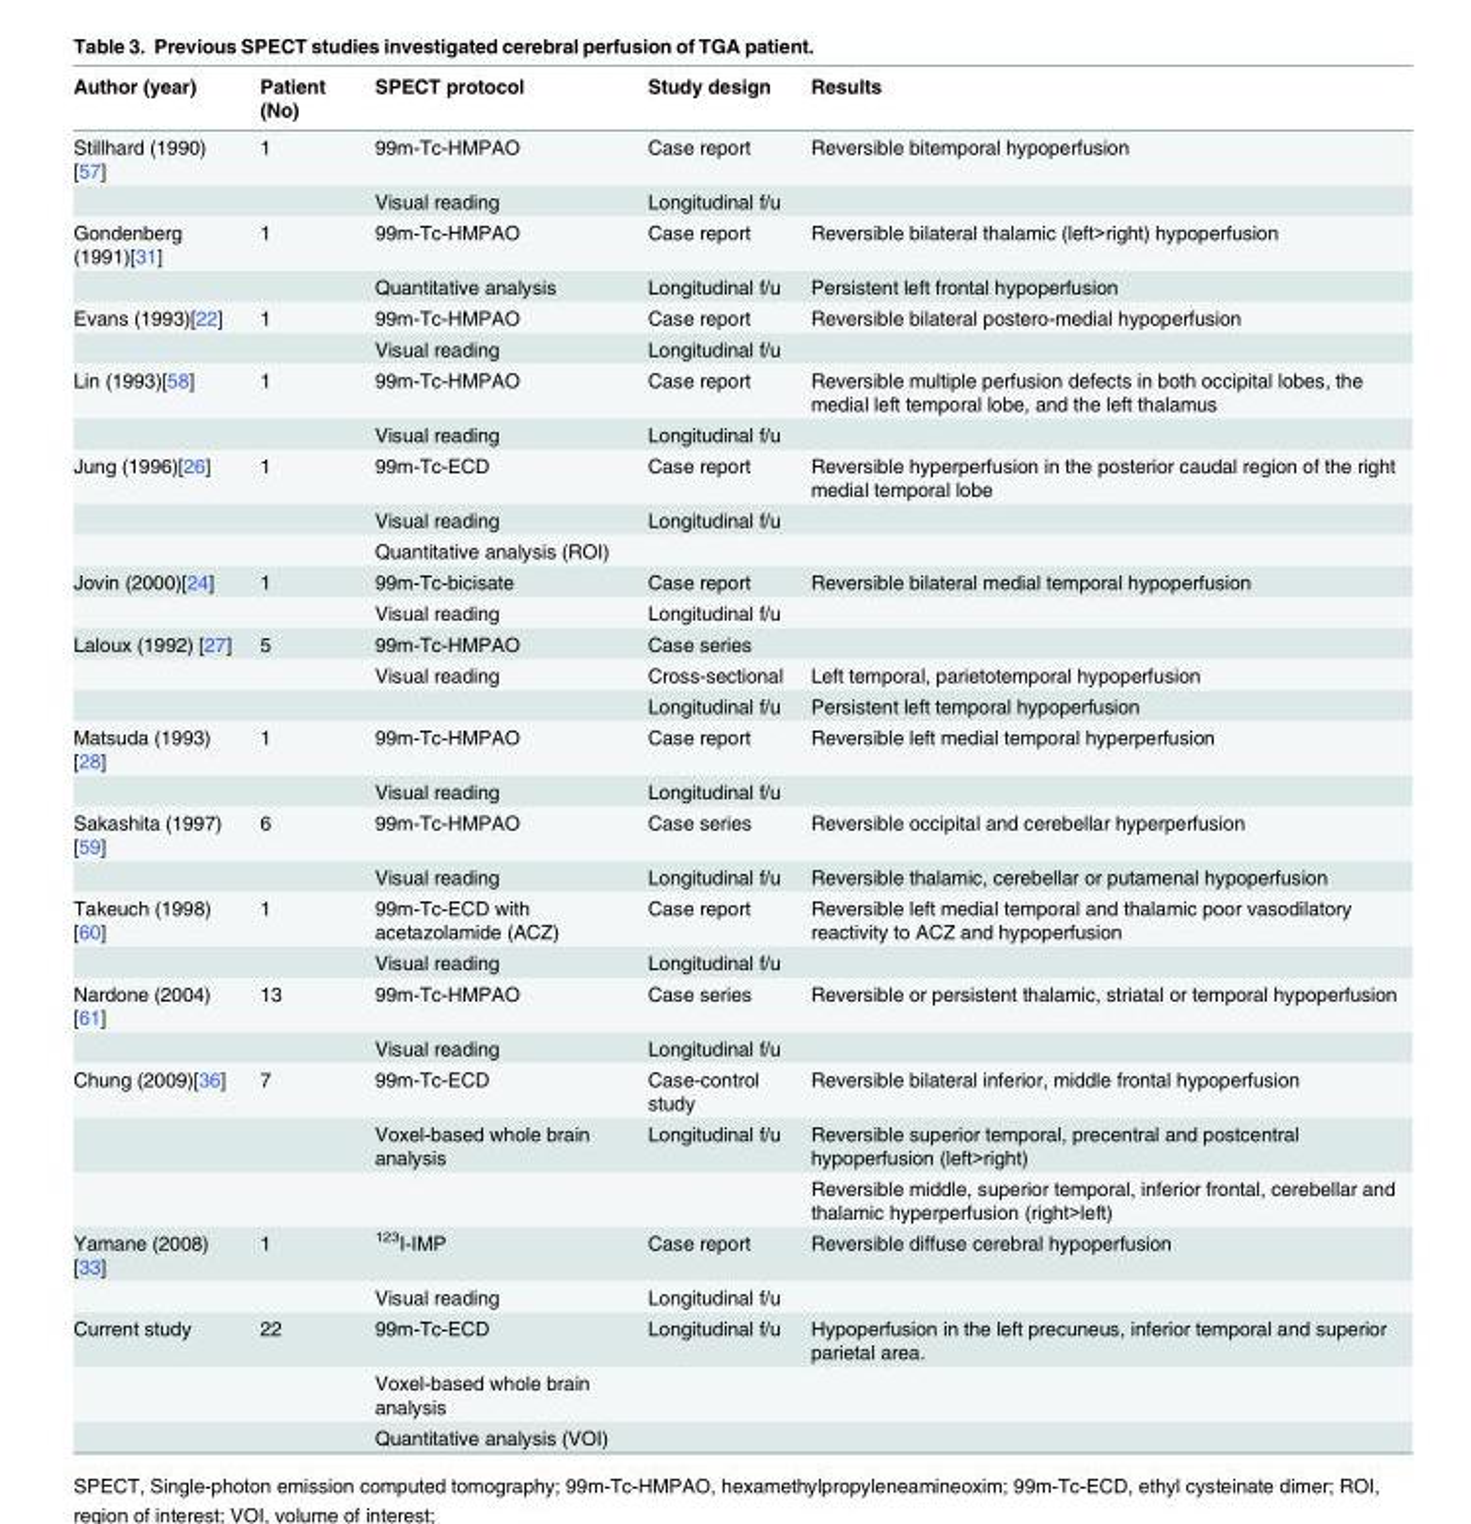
<table><thead><tr><td>Author (year)</td><td>Patient (No)</td><td>SPECT protocol</td><td>Study design</td><td>Results</td></tr></thead><tbody><tr><td rowspan="2">Stillhard (1990) [57]</td><td>1</td><td>99m-Tc-HMPAO</td><td>Case report</td><td>Reversible bitemporal hypoperfusion</td></tr><tr><td></td><td>Visual reading</td><td>Longitudinal f/u</td><td></td></tr><tr><td rowspan="2">Gondenberg (1991)[31]</td><td>1</td><td>99m-Tc-HMPAO</td><td>Case report</td><td>Reversible bilateral thalamic (left&gt;right) hypoperfusion</td></tr><tr><td></td><td>Quantitative analysis</td><td>Longitudinal f/u</td><td>Persistent left frontal hypoperfusion</td></tr><tr><td rowspan="2">Evans (1993)[22]</td><td>1</td><td>99m-Tc-HMPAO</td><td>Case report</td><td>Reversible bilateral postero-medial hypoperfusion</td></tr><tr><td></td><td>Visual reading</td><td>Longitudinal f/u</td><td></td></tr><tr><td rowspan="2">Lin (1993)[58]</td><td>1</td><td>99m-Tc-HMPAO</td><td>Case report</td><td>Reversible multiple perfusion defects in both occipital lobes, the medial left temporal lobe, and the left thalamus</td></tr><tr><td></td><td>Visual reading</td><td>Longitudinal f/u</td><td></td></tr><tr><td rowspan="3">Jung (1996)[26]</td><td>1</td><td>99m-Tc-ECD</td><td>Case report</td><td>Reversible hyperperfusion in the posterior caudal region of the right medial temporal lobe</td></tr><tr><td></td><td>Visual reading</td><td>Longitudinal f/u</td><td></td></tr><tr><td></td><td>Quantitative analysis (ROI)</td><td></td><td></td></tr><tr><td rowspan="2">Jovin (2000)[24]</td><td>1</td><td>99m-Tc-bicisate</td><td>Case report</td><td>Reversible bilateral medial temporal hypoperfusion</td></tr><tr><td></td><td>Visual reading</td><td>Longitudinal f/u</td><td></td></tr><tr><td rowspan="3">Laloux (1992) [27]</td><td>5</td><td>99m-Tc-HMPAO</td><td>Case series</td><td></td></tr><tr><td></td><td>Visual reading</td><td>Cross-sectional</td><td>Left temporal, parietotemporal hypoperfusion</td></tr><tr><td></td><td></td><td>Longitudinal f/u</td><td>Persistent left temporal hypoperfusion</td></tr><tr><td rowspan="2">Matsuda (1993) [28]</td><td>1</td><td>99m-Tc-HMPAO</td><td>Case report</td><td>Reversible left medial temporal hyperperfusion</td></tr><tr><td></td><td>Visual reading</td><td>Longitudinal f/u</td><td></td></tr><tr><td rowspan="2">Sakashita (1997) [59]</td><td>6</td><td>99m-Tc-HMPAO</td><td>Case series</td><td>Reversible occipital and cerebellar hyperperfusion</td></tr><tr><td></td><td>Visual reading</td><td>Longitudinal f/u</td><td>Reversible thalamic, cerebellar or putamenal hypoperfusion</td></tr><tr><td rowspan="2">Takeuch (1998) [60]</td><td>1</td><td>99m-Tc-ECD with acetazolamide (ACZ)</td><td>Case report</td><td>Reversible left medial temporal and thalamic poor vasodilatory reactivity to ACZ and hypoperfusion</td></tr><tr><td></td><td>Visual reading</td><td>Longitudinal f/u</td><td></td></tr><tr><td rowspan="2">Nardone (2004) [61]</td><td>13</td><td>99m-Tc-HMPAO</td><td>Case series</td><td>Reversible or persistent thalamic, striatal or temporal hypoperfusion</td></tr><tr><td></td><td>Visual reading</td><td>Longitudinal f/u</td><td></td></tr><tr><td rowspan="3">Chung (2009)[36]</td><td>7</td><td>99m-Tc-ECD</td><td>Case-control study</td><td>Reversible bilateral inferior, middle frontal hypoperfusion</td></tr><tr><td></td><td>Voxel-based whole brain analysis</td><td>Longitudinal f/u</td><td>Reversible superior temporal, precentral and postcentral hypoperfusion (left&gt;right)</td></tr><tr><td></td><td></td><td></td><td>Reversible middle, superior temporal, inferior frontal, cerebellar and thalamic hyperperfusion (right&gt;left)</td></tr><tr><td rowspan="2">Yamane (2008) [33]</td><td>1</td><td><sup>123</sup>I-IMP</td><td>Case report</td><td>Reversible diffuse cerebral hypoperfusion</td></tr><tr><td></td><td>Visual reading</td><td>Longitudinal f/u</td><td></td></tr><tr><td rowspan="3">Current study</td><td>22</td><td>99m-Tc-ECD</td><td>Longitudinal f/u</td><td>Hypoperfusion in the left precuneus, inferior temporal and superior parietal area.</td></tr><tr><td></td><td>Voxel-based whole brain analysis</td><td></td><td></td></tr><tr><td></td><td>Quantitative analysis (VOI)</td><td></td><td></td></tr></tbody></table>